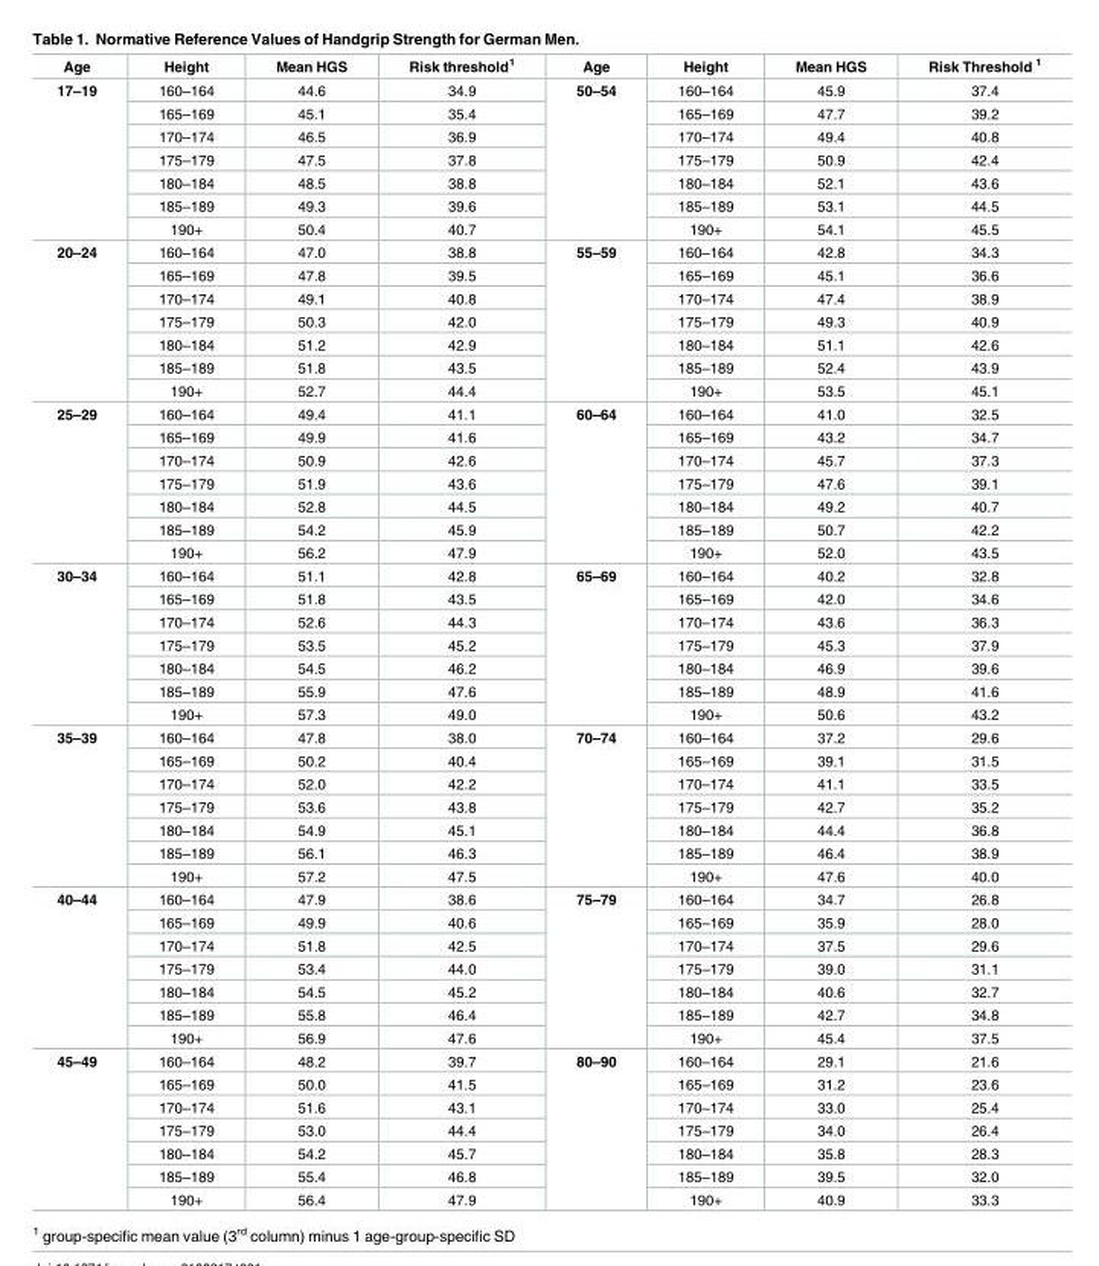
<table><thead><tr><td>Age</td><td>Height</td><td>Mean HGS</td><td>Risk threshold<sup>1</sup></td><td>Age</td><td>Height</td><td>Mean HGS</td><td>Risk Threshold <sup>1</sup></td></tr></thead><tbody><tr><td rowspan="7">17–19</td><td>160–164</td><td>44.6</td><td>34.9</td><td rowspan="7">50–54</td><td>160–164</td><td>45.9</td><td>37.4</td></tr><tr><td>165–169</td><td>45.1</td><td>35.4</td><td>165–169</td><td>47.7</td><td>39.2</td></tr><tr><td>170–174</td><td>46.5</td><td>36.9</td><td>170–174</td><td>49.4</td><td>40.8</td></tr><tr><td>175–179</td><td>47.5</td><td>37.8</td><td>175–179</td><td>50.9</td><td>42.4</td></tr><tr><td>180–184</td><td>48.5</td><td>38.8</td><td>180–184</td><td>52.1</td><td>43.6</td></tr><tr><td>185–189</td><td>49.3</td><td>39.6</td><td>185–189</td><td>53.1</td><td>44.5</td></tr><tr><td>190+</td><td>50.4</td><td>40.7</td><td>190+</td><td>54.1</td><td>45.5</td></tr><tr><td rowspan="7">20–24</td><td>160–164</td><td>47.0</td><td>38.8</td><td rowspan="7">55–59</td><td>160–164</td><td>42.8</td><td>34.3</td></tr><tr><td>165–169</td><td>47.8</td><td>39.5</td><td>165–169</td><td>45.1</td><td>36.6</td></tr><tr><td>170–174</td><td>49.1</td><td>40.8</td><td>170–174</td><td>47.4</td><td>38.9</td></tr><tr><td>175–179</td><td>50.3</td><td>42.0</td><td>175–179</td><td>49.3</td><td>40.9</td></tr><tr><td>180–184</td><td>51.2</td><td>42.9</td><td>180–184</td><td>51.1</td><td>42.6</td></tr><tr><td>185–189</td><td>51.8</td><td>43.5</td><td>185–189</td><td>52.4</td><td>43.9</td></tr><tr><td>190+</td><td>52.7</td><td>44.4</td><td>190+</td><td>53.5</td><td>45.1</td></tr><tr><td rowspan="7">25–29</td><td>160–164</td><td>49.4</td><td>41.1</td><td rowspan="7">60–64</td><td>160–164</td><td>41.0</td><td>32.5</td></tr><tr><td>165–169</td><td>49.9</td><td>41.6</td><td>165–169</td><td>43.2</td><td>34.7</td></tr><tr><td>170–174</td><td>50.9</td><td>42.6</td><td>170–174</td><td>45.7</td><td>37.3</td></tr><tr><td>175–179</td><td>51.9</td><td>43.6</td><td>175–179</td><td>47.6</td><td>39.1</td></tr><tr><td>180–184</td><td>52.8</td><td>44.5</td><td>180–184</td><td>49.2</td><td>40.7</td></tr><tr><td>185–189</td><td>54.2</td><td>45.9</td><td>185–189</td><td>50.7</td><td>42.2</td></tr><tr><td>190+</td><td>56.2</td><td>47.9</td><td>190+</td><td>52.0</td><td>43.5</td></tr><tr><td rowspan="7">30–34</td><td>160–164</td><td>51.1</td><td>42.8</td><td rowspan="7">65–69</td><td>160–164</td><td>40.2</td><td>32.8</td></tr><tr><td>165–169</td><td>51.8</td><td>43.5</td><td>165–169</td><td>42.0</td><td>34.6</td></tr><tr><td>170–174</td><td>52.6</td><td>44.3</td><td>170–174</td><td>43.6</td><td>36.3</td></tr><tr><td>175–179</td><td>53.5</td><td>45.2</td><td>175–179</td><td>45.3</td><td>37.9</td></tr><tr><td>180–184</td><td>54.5</td><td>46.2</td><td>180–184</td><td>46.9</td><td>39.6</td></tr><tr><td>185–189</td><td>55.9</td><td>47.6</td><td>185–189</td><td>48.9</td><td>41.6</td></tr><tr><td>190+</td><td>57.3</td><td>49.0</td><td>190+</td><td>50.6</td><td>43.2</td></tr><tr><td rowspan="7">35–39</td><td>160–164</td><td>47.8</td><td>38.0</td><td rowspan="7">70–74</td><td>160–164</td><td>37.2</td><td>29.6</td></tr><tr><td>165–169</td><td>50.2</td><td>40.4</td><td>165–169</td><td>39.1</td><td>31.5</td></tr><tr><td>170–174</td><td>52.0</td><td>42.2</td><td>170–174</td><td>41.1</td><td>33.5</td></tr><tr><td>175–179</td><td>53.6</td><td>43.8</td><td>175–179</td><td>42.7</td><td>35.2</td></tr><tr><td>180–184</td><td>54.9</td><td>45.1</td><td>180–184</td><td>44.4</td><td>36.8</td></tr><tr><td>185–189</td><td>56.1</td><td>46.3</td><td>185–189</td><td>46.4</td><td>38.9</td></tr><tr><td>190+</td><td>57.2</td><td>47.5</td><td>190+</td><td>47.6</td><td>40.0</td></tr><tr><td rowspan="7">40–44</td><td>160–164</td><td>47.9</td><td>38.6</td><td rowspan="7">75–79</td><td>160–164</td><td>34.7</td><td>26.8</td></tr><tr><td>165–169</td><td>49.9</td><td>40.6</td><td>165–169</td><td>35.9</td><td>28.0</td></tr><tr><td>170–174</td><td>51.8</td><td>42.5</td><td>170–174</td><td>37.5</td><td>29.6</td></tr><tr><td>175–179</td><td>53.4</td><td>44.0</td><td>175–179</td><td>39.0</td><td>31.1</td></tr><tr><td>180–184</td><td>54.5</td><td>45.2</td><td>180–184</td><td>40.6</td><td>32.7</td></tr><tr><td>185–189</td><td>55.8</td><td>46.4</td><td>185–189</td><td>42.7</td><td>34.8</td></tr><tr><td>190+</td><td>56.9</td><td>47.6</td><td>190+</td><td>45.4</td><td>37.5</td></tr><tr><td rowspan="7">45–49</td><td>160–164</td><td>48.2</td><td>39.7</td><td rowspan="7">80–90</td><td>160–164</td><td>29.1</td><td>21.6</td></tr><tr><td>165–169</td><td>50.0</td><td>41.5</td><td>165–169</td><td>31.2</td><td>23.6</td></tr><tr><td>170–174</td><td>51.6</td><td>43.1</td><td>170–174</td><td>33.0</td><td>25.4</td></tr><tr><td>175–179</td><td>53.0</td><td>44.4</td><td>175–179</td><td>34.0</td><td>26.4</td></tr><tr><td>180–184</td><td>54.2</td><td>45.7</td><td>180–184</td><td>35.8</td><td>28.3</td></tr><tr><td>185–189</td><td>55.4</td><td>46.8</td><td>185–189</td><td>39.5</td><td>32.0</td></tr><tr><td>190+</td><td>56.4</td><td>47.9</td><td>190+</td><td>40.9</td><td>33.3</td></tr></tbody></table>